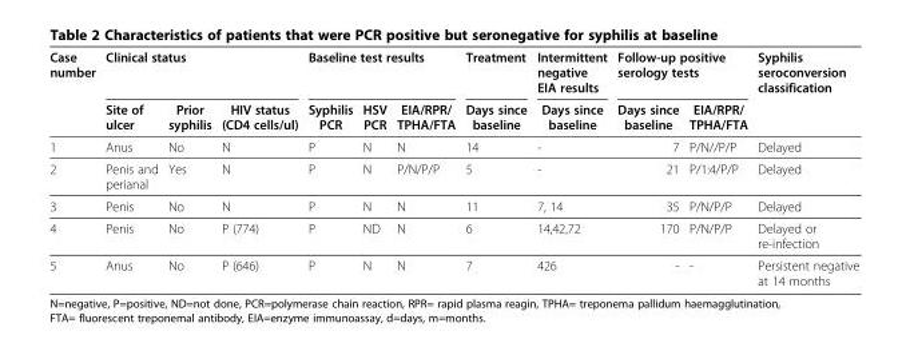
<table><thead><tr><td rowspan="2">Case number</td><td colspan="3">Clinical status</td><td colspan="3">Baseline test results</td><td rowspan="2">Treatment Days since baseline</td><td rowspan="2">Intermittent negative EIA results Days since baseline</td><td colspan="2">Follow-up positive serology tests</td><td rowspan="2">Syphilis seroconversion classification</td></tr><tr><td>Site of ulcer</td><td>Prior syphilis</td><td>HIV status (CD4 cells/ul)</td><td>Syphilis PCR</td><td>HSV PCR</td><td>EIA/RPR/ TPHA/FTA</td><td>Days since baseline</td><td>EIA/RPR/ TPHA/FTA</td></tr></thead><tbody><tr><td>1</td><td>Anus</td><td>No</td><td>N</td><td>P</td><td>N</td><td>N</td><td>14</td><td>-</td><td>7</td><td>P/N//P/P</td><td>Delayed</td></tr><tr><td>2</td><td>Penis and perianal</td><td>Yes</td><td>N</td><td>P</td><td>N</td><td>P/N/P/P</td><td>5</td><td>-</td><td>21</td><td>P/1:4/P/P</td><td>Delayed</td></tr><tr><td>3</td><td>Penis</td><td>No</td><td>N</td><td>P</td><td>N</td><td>N</td><td>11</td><td>7, 14</td><td>35</td><td>P/N/P/P</td><td>Delayed</td></tr><tr><td>4</td><td>Penis</td><td>No</td><td>P (774)</td><td>P</td><td>ND</td><td>N</td><td>6</td><td>14,42,72</td><td>170</td><td>P/N/P/P</td><td>Delayed or re-infection</td></tr><tr><td>5</td><td>Anus</td><td>No</td><td>P (646)</td><td>P</td><td>N</td><td>N</td><td>7</td><td>426</td><td>-</td><td>-</td><td>Persistent negative at 14 months</td></tr></tbody></table>